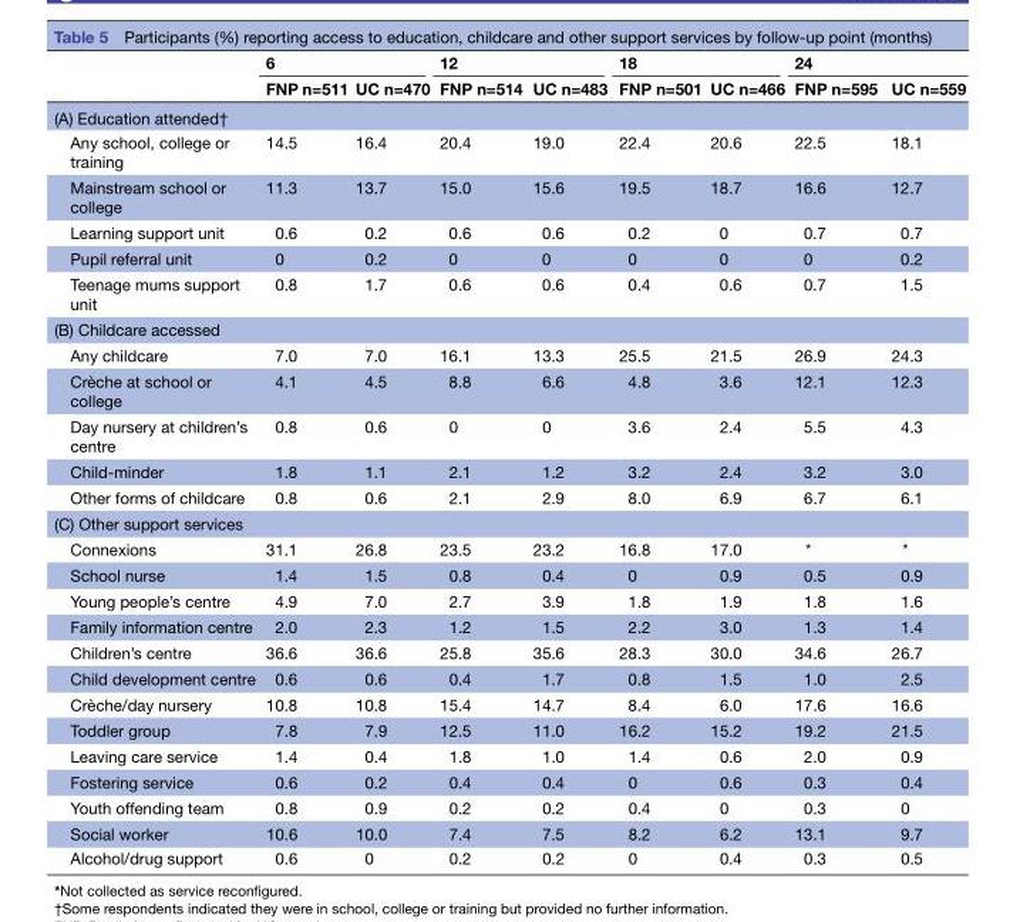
<table><thead><tr><td rowspan="2"></td><td colspan="2">6</td><td colspan="2">12</td><td colspan="2">18</td><td colspan="2">24</td></tr><tr><td>FNP n=511</td><td>UC n=470</td><td>FNP n=514</td><td>UC n=483</td><td>FNP n=501</td><td>UC n=466</td><td>FNP n=595</td><td>UC n=559</td></tr></thead><tbody><tr><td colspan="9">(A) Education attended†</td></tr><tr><td>Any school, college or training</td><td>14.5</td><td>16.4</td><td>20.4</td><td>19.0</td><td>22.4</td><td>20.6</td><td>22.5</td><td>18.1</td></tr><tr><td>Mainstream school or college</td><td>11.3</td><td>13.7</td><td>15.0</td><td>15.6</td><td>19.5</td><td>18.7</td><td>16.6</td><td>12.7</td></tr><tr><td>Learning support unit</td><td>0.6</td><td>0.2</td><td>0.6</td><td>0.6</td><td>0.2</td><td>0</td><td>0.7</td><td>0.7</td></tr><tr><td>Pupil referral unit</td><td>0</td><td>0.2</td><td>0</td><td>0</td><td>0</td><td>0</td><td>0</td><td>0.2</td></tr><tr><td>Teenage mums support unit</td><td>0.8</td><td>1.7</td><td>0.6</td><td>0.6</td><td>0.4</td><td>0.6</td><td>0.7</td><td>1.5</td></tr><tr><td colspan="9">(B) Childcare accessed</td></tr><tr><td>Any childcare</td><td>7.0</td><td>7.0</td><td>16.1</td><td>13.3</td><td>25.5</td><td>21.5</td><td>26.9</td><td>24.3</td></tr><tr><td>Crèche at school or college</td><td>4.1</td><td>4.5</td><td>8.8</td><td>6.6</td><td>4.8</td><td>3.6</td><td>12.1</td><td>12.3</td></tr><tr><td>Day nursery at children’s centre</td><td>0.8</td><td>0.6</td><td>0</td><td>0</td><td>3.6</td><td>2.4</td><td>5.5</td><td>4.3</td></tr><tr><td>Child-minder</td><td>1.8</td><td>1.1</td><td>2.1</td><td>1.2</td><td>3.2</td><td>2.4</td><td>3.2</td><td>3.0</td></tr><tr><td>Other forms of childcare</td><td>0.8</td><td>0.6</td><td>2.1</td><td>2.9</td><td>8.0</td><td>6.9</td><td>6.7</td><td>6.1</td></tr><tr><td colspan="9">(C) Other support services</td></tr><tr><td>Connexions</td><td>31.1</td><td>26.8</td><td>23.5</td><td>23.2</td><td>16.8</td><td>17.0</td><td>*</td><td>*</td></tr><tr><td>School nurse</td><td>1.4</td><td>1.5</td><td>0.8</td><td>0.4</td><td>0</td><td>0.9</td><td>0.5</td><td>0.9</td></tr><tr><td>Young people’s centre</td><td>4.9</td><td>7.0</td><td>2.7</td><td>3.9</td><td>1.8</td><td>1.9</td><td>1.8</td><td>1.6</td></tr><tr><td>Family information centre</td><td>2.0</td><td>2.3</td><td>1.2</td><td>1.5</td><td>2.2</td><td>3.0</td><td>1.3</td><td>1.4</td></tr><tr><td>Children’s centre</td><td>36.6</td><td>36.6</td><td>25.8</td><td>35.6</td><td>28.3</td><td>30.0</td><td>34.6</td><td>26.7</td></tr><tr><td>Child development centre</td><td>0.6</td><td>0.6</td><td>0.4</td><td>1.7</td><td>0.8</td><td>1.5</td><td>1.0</td><td>2.5</td></tr><tr><td>Crèche/day nursery</td><td>10.8</td><td>10.8</td><td>15.4</td><td>14.7</td><td>8.4</td><td>6.0</td><td>17.6</td><td>16.6</td></tr><tr><td>Toddler group</td><td>7.8</td><td>7.9</td><td>12.5</td><td>11.0</td><td>16.2</td><td>15.2</td><td>19.2</td><td>21.5</td></tr><tr><td>Leaving care service</td><td>1.4</td><td>0.4</td><td>1.8</td><td>1.0</td><td>1.4</td><td>0.6</td><td>2.0</td><td>0.9</td></tr><tr><td>Fostering service</td><td>0.6</td><td>0.2</td><td>0.4</td><td>0.4</td><td>0</td><td>0.6</td><td>0.3</td><td>0.4</td></tr><tr><td>Youth offending team</td><td>0.8</td><td>0.9</td><td>0.2</td><td>0.2</td><td>0.4</td><td>0</td><td>0.3</td><td>0</td></tr><tr><td>Social worker</td><td>10.6</td><td>10.0</td><td>7.4</td><td>7.5</td><td>8.2</td><td>6.2</td><td>13.1</td><td>9.7</td></tr><tr><td>Alcohol/drug support</td><td>0.6</td><td>0</td><td>0.2</td><td>0.2</td><td>0</td><td>0.4</td><td>0.3</td><td>0.5</td></tr></tbody></table>